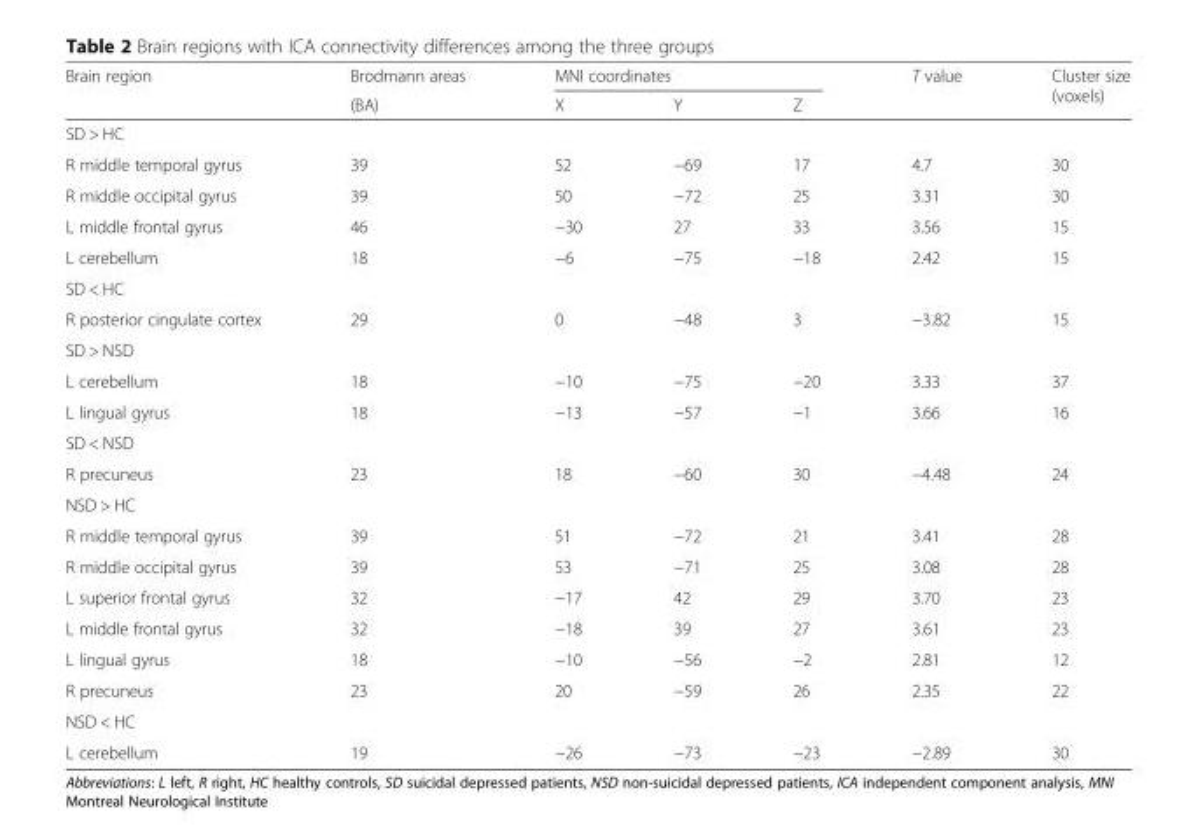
<table><thead><tr><td rowspan="2">Brain region</td><td rowspan="2">Brodmann areas (BA)</td><td colspan="3">MNI coordinates</td><td rowspan="2">T value</td><td rowspan="2">Cluster size (voxels)</td></tr><tr><td>X</td><td>Y</td><td>Z</td></tr></thead><tbody><tr><td colspan="7">SD &gt; HC</td></tr><tr><td>R middle temporal gyrus</td><td>39</td><td>52</td><td>−69</td><td>17</td><td>4.7</td><td>30</td></tr><tr><td>R middle occipital gyrus</td><td>39</td><td>50</td><td>−72</td><td>25</td><td>3.31</td><td>30</td></tr><tr><td>L middle frontal gyrus</td><td>46</td><td>−30</td><td>27</td><td>33</td><td>3.56</td><td>15</td></tr><tr><td>L cerebellum</td><td>18</td><td>−6</td><td>−75</td><td>−18</td><td>2.42</td><td>15</td></tr><tr><td colspan="7">SD &lt; HC</td></tr><tr><td>R posterior cingulate cortex</td><td>29</td><td>0</td><td>−48</td><td>3</td><td>−3.82</td><td>15</td></tr><tr><td colspan="7">SD &gt; NSD</td></tr><tr><td>L cerebellum</td><td>18</td><td>−10</td><td>−75</td><td>−20</td><td>3.33</td><td>37</td></tr><tr><td>L lingual gyrus</td><td>18</td><td>−13</td><td>−57</td><td>−1</td><td>3.66</td><td>16</td></tr><tr><td colspan="7">SD &lt; NSD</td></tr><tr><td>R precuneus</td><td>23</td><td>18</td><td>−60</td><td>30</td><td>−4.48</td><td>24</td></tr><tr><td colspan="7">NSD &gt; HC</td></tr><tr><td>R middle temporal gyrus</td><td>39</td><td>51</td><td>−72</td><td>21</td><td>3.41</td><td>28</td></tr><tr><td>R middle occipital gyrus</td><td>39</td><td>53</td><td>−71</td><td>25</td><td>3.08</td><td>28</td></tr><tr><td>L superior frontal gyrus</td><td>32</td><td>−17</td><td>42</td><td>29</td><td>3.70</td><td>23</td></tr><tr><td>L middle frontal gyrus</td><td>32</td><td>−18</td><td>39</td><td>27</td><td>3.61</td><td>23</td></tr><tr><td>L lingual gyrus</td><td>18</td><td>−10</td><td>−56</td><td>−2</td><td>2.81</td><td>12</td></tr><tr><td>R precuneus</td><td>23</td><td>20</td><td>−59</td><td>26</td><td>2.35</td><td>22</td></tr><tr><td colspan="7">NSD &lt; HC</td></tr><tr><td>L cerebellum</td><td>19</td><td>−26</td><td>−73</td><td>−23</td><td>−2.89</td><td>30</td></tr></tbody></table>